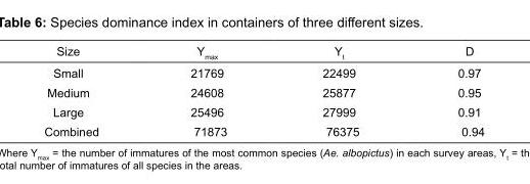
<table><thead><tr><td>Size</td><td>Y<sub>max</sub></td><td>Y<sub>t</sub></td><td>D</td></tr></thead><tbody><tr><td>Small</td><td>21769</td><td>22499</td><td>0.97</td></tr><tr><td>Medium</td><td>24608</td><td>25877</td><td>0.95</td></tr><tr><td>Large</td><td>25496</td><td>27999</td><td>0.91</td></tr><tr><td>Combined</td><td>71873</td><td>76375</td><td>0.94</td></tr></tbody></table>